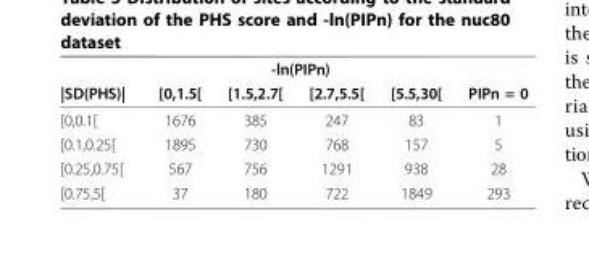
<table><thead><tr><td rowspan="2">|SD(PHS)|</td><td colspan="4">-ln(PIPn)</td><td rowspan="2">PIPn = 0</td></tr><tr><td>[0,1.5[</td><td>[1.5,2.7[</td><td>[2.7,5.5[</td><td>[5.5,30[</td></tr></thead><tbody><tr><td>[0,0.1[</td><td>1676</td><td>385</td><td>247</td><td>83</td><td>1</td></tr><tr><td>[0.1,0.25[</td><td>1895</td><td>730</td><td>768</td><td>157</td><td>5</td></tr><tr><td>[0.25,0.75[</td><td>567</td><td>756</td><td>1291</td><td>938</td><td>28</td></tr><tr><td>[0.75,5[</td><td>37</td><td>180</td><td>722</td><td>1849</td><td>293</td></tr></tbody></table>